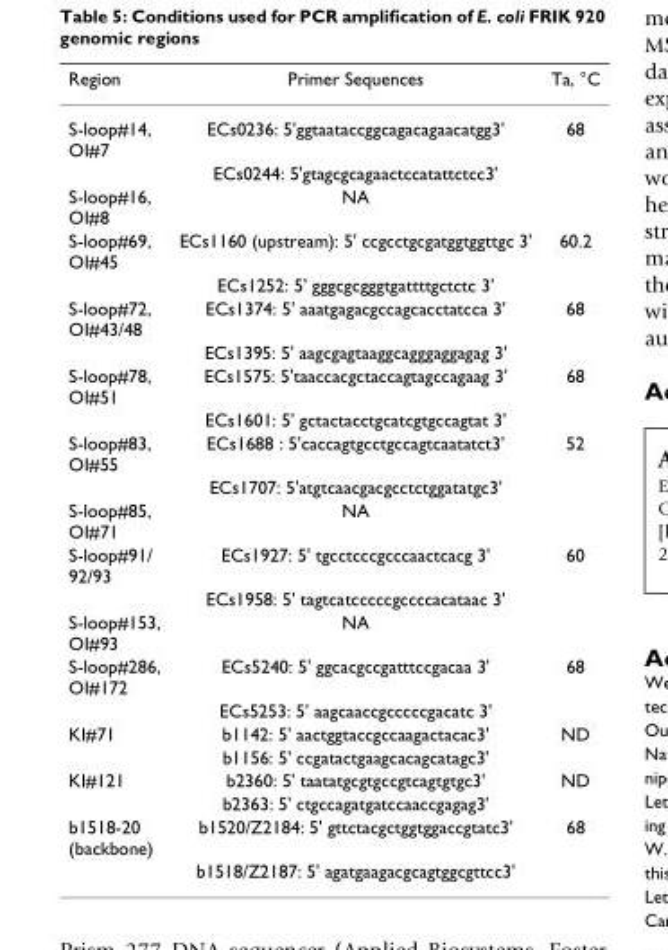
<table><thead><tr><td>Region</td><td>Primer Sequences</td><td>Ta, °C</td></tr></thead><tbody><tr><td rowspan="2">S-loop#14, OI#7</td><td>ECs0236: 5&#x27;ggtaataccggcagacagaacatgg3&#x27;</td><td>68</td></tr><tr><td>ECs0244: 5&#x27;gtagcgcagaactccatattctcc3&#x27;</td><td></td></tr><tr><td>S-loop#16, OI#8</td><td>NA</td><td></td></tr><tr><td rowspan="2">S-loop#69, OI#45</td><td>ECs1160 (upstream): 5&#x27; ccgcctgcgatggtggttgc 3&#x27;</td><td>60.2</td></tr><tr><td>ECs1252: 5&#x27; gggcgcgggtgattttgctctc 3&#x27;</td><td></td></tr><tr><td rowspan="2">S-loop#72, OI#43/48</td><td>ECs1374: 5&#x27; aaatgagacgccagcacctatcca 3&#x27;</td><td>68</td></tr><tr><td>ECs1395: 5&#x27; aagcgagtaaggcagggaggagag 3&#x27;</td><td></td></tr><tr><td rowspan="2">S-loop#78, OI#51</td><td>ECs1575: 5&#x27;taaccacgctaccagtagccagaag 3&#x27;</td><td>68</td></tr><tr><td>ECs1601: 5&#x27; gctactacctgcatcgtgccagtat 3&#x27;</td><td></td></tr><tr><td rowspan="2">S-loop#83, OI#55</td><td>ECs1688 : 5&#x27;caccagtgcctgccagtcaatatct3&#x27;</td><td>52</td></tr><tr><td>ECs1707: 5&#x27;atgtcaacgacgcctctggatatgc3&#x27;</td><td></td></tr><tr><td>S-loop#85, OI#71</td><td>NA</td><td></td></tr><tr><td rowspan="2">S-loop#91/ 92/93</td><td>ECs1927: 5&#x27; tgcctcccgcccaactcacg 3&#x27;</td><td>60</td></tr><tr><td>ECs1958: 5&#x27; tagtcatcccccgccccacataac 3&#x27;</td><td></td></tr><tr><td>S-loop#153, OI#93</td><td>NA</td><td></td></tr><tr><td rowspan="2">S-loop#286, OI#172</td><td>ECs5240: 5&#x27; ggcacgccgatttccgacaa 3&#x27;</td><td>68</td></tr><tr><td>ECs5253: 5&#x27; aagcaaccgcccccgacatc 3&#x27;</td><td></td></tr><tr><td rowspan="2">KI#71</td><td>b1142: 5&#x27; aactggtaccgccaagactacac3&#x27;</td><td>ND</td></tr><tr><td>b1156: 5&#x27; ccgatactgaagcacagcatagc3&#x27;</td><td></td></tr><tr><td rowspan="2">KI#121</td><td>b2360: 5&#x27; taatatgcgtgccgtcagtgtgc3&#x27;</td><td>ND</td></tr><tr><td>b2363: 5&#x27; ctgccagatgatccaaccgagag3&#x27;</td><td></td></tr><tr><td rowspan="2">b1518-20 (backbone)</td><td>b1520/Z2184: 5&#x27; gttctacgctggtggaccgtatc3&#x27;</td><td>68</td></tr><tr><td>b1518/Z2187: 5&#x27; agatgaagacgcagtggcgttcc3&#x27;</td><td></td></tr></tbody></table>